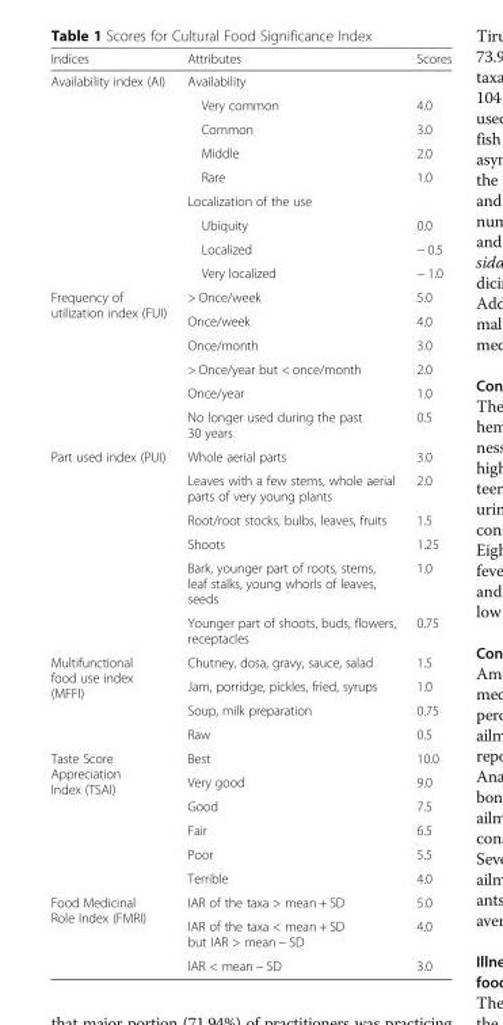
<table><thead><tr><td>Indices</td><td>Attributes</td><td>Scores</td></tr></thead><tbody><tr><td rowspan="9">Availability index (AI)</td><td colspan="2">Availability</td></tr><tr><td>Very common</td><td>4.0</td></tr><tr><td>Common</td><td>3.0</td></tr><tr><td>Middle</td><td>2.0</td></tr><tr><td>Rare</td><td>1.0</td></tr><tr><td colspan="2">Localization of the use</td></tr><tr><td>Ubiquity</td><td>0.0</td></tr><tr><td>Localized</td><td>− 0.5</td></tr><tr><td>Very localized</td><td>− 1.0</td></tr><tr><td rowspan="6">Frequency of utilization index (FUI)</td><td>&gt; Once/week</td><td>5.0</td></tr><tr><td>Once/week</td><td>4.0</td></tr><tr><td>Once/month</td><td>3.0</td></tr><tr><td>&gt; Once/year but &lt; once/month</td><td>2.0</td></tr><tr><td>Once/year</td><td>1.0</td></tr><tr><td>No longer used during the past 30 years</td><td>0.5</td></tr><tr><td rowspan="6">Part used index (PUI)</td><td>Whole aerial parts</td><td>3.0</td></tr><tr><td>Leaves with a few stems, whole aerial parts of very young plants</td><td>2.0</td></tr><tr><td>Root/root stocks, bulbs, leaves, fruits</td><td>1.5</td></tr><tr><td>Shoots</td><td>1.25</td></tr><tr><td>Bark, younger part of roots, stems, leaf stalks, young whorls of leaves, seeds</td><td>1.0</td></tr><tr><td>Younger part of shoots, buds, flowers, receptacles</td><td>0.75</td></tr><tr><td rowspan="4">Multifunctional food use index (MFFI)</td><td>Chutney, dosa, gravy, sauce, salad</td><td>1.5</td></tr><tr><td>Jam, porridge, pickles, fried, syrups</td><td>1.0</td></tr><tr><td>Soup, milk preparation</td><td>0.75</td></tr><tr><td>Raw</td><td>0.5</td></tr><tr><td rowspan="6">Taste Score Appreciation Index (TSAI)</td><td>Best</td><td>10.0</td></tr><tr><td>Very good</td><td>9.0</td></tr><tr><td>Good</td><td>7.5</td></tr><tr><td>Fair</td><td>6.5</td></tr><tr><td>Poor</td><td>5.5</td></tr><tr><td>Terrible</td><td>4.0</td></tr><tr><td rowspan="3">Food Medicinal Role Index (FMRI)</td><td>IAR of the taxa &gt; mean + SD</td><td>5.0</td></tr><tr><td>IAR of the taxa &lt; mean + SD but IAR &gt; mean − SD</td><td>4.0</td></tr><tr><td>IAR &lt; mean − SD</td><td>3.0</td></tr></tbody></table>